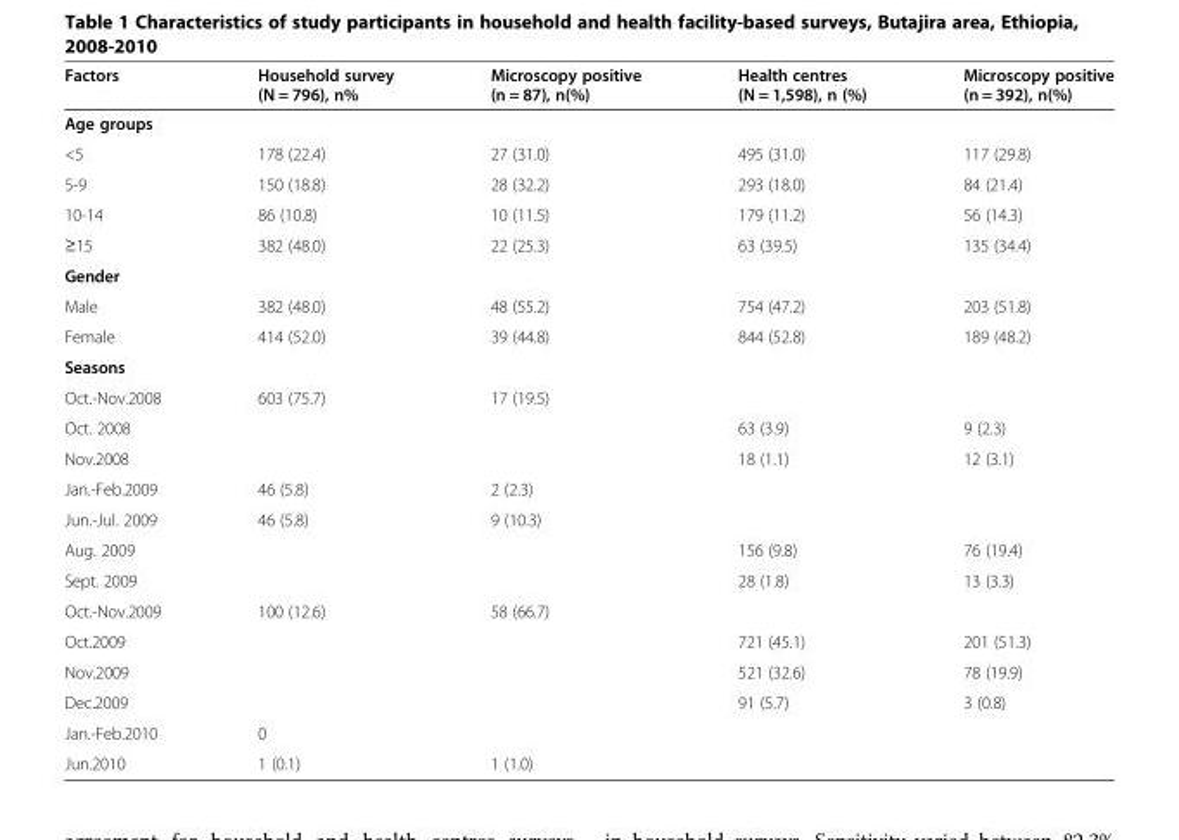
<table><thead><tr><td>Factors</td><td>Household survey (N = 796), n%</td><td>Microscopy positive (n = 87), n(%)</td><td>Health centres (N = 1,598), n (%)</td><td>Microscopy positive (n = 392), n(%)</td></tr></thead><tbody><tr><td colspan="5">Age groups</td></tr><tr><td>&lt;5</td><td>178 (22.4)</td><td>27 (31.0)</td><td>495 (31.0)</td><td>117 (29.8)</td></tr><tr><td>5-9</td><td>150 (18.8)</td><td>28 (32.2)</td><td>293 (18.0)</td><td>84 (21.4)</td></tr><tr><td>10-14</td><td>86 (10.8)</td><td>10 (11.5)</td><td>179 (11.2)</td><td>56 (14.3)</td></tr><tr><td>≥15</td><td>382 (48.0)</td><td>22 (25.3)</td><td>63 (39.5)</td><td>135 (34.4)</td></tr><tr><td colspan="5">Gender</td></tr><tr><td>Male</td><td>382 (48.0)</td><td>48 (55.2)</td><td>754 (47.2)</td><td>203 (51.8)</td></tr><tr><td>Female</td><td>414 (52.0)</td><td>39 (44.8)</td><td>844 (52.8)</td><td>189 (48.2)</td></tr><tr><td colspan="5">Seasons</td></tr><tr><td>Oct.-Nov.2008</td><td>603 (75.7)</td><td>17 (19.5)</td><td></td><td></td></tr><tr><td>Oct. 2008</td><td></td><td></td><td>63 (3.9)</td><td>9 (2.3)</td></tr><tr><td>Nov.2008</td><td></td><td></td><td>18 (1.1)</td><td>12 (3.1)</td></tr><tr><td>Jan.-Feb.2009</td><td>46 (5.8)</td><td>2 (2.3)</td><td></td><td></td></tr><tr><td>Jun.-Jul. 2009</td><td>46 (5.8)</td><td>9 (10.3)</td><td></td><td></td></tr><tr><td>Aug. 2009</td><td></td><td></td><td>156 (9.8)</td><td>76 (19.4)</td></tr><tr><td>Sept. 2009</td><td></td><td></td><td>28 (1.8)</td><td>13 (3.3)</td></tr><tr><td>Oct.-Nov.2009</td><td>100 (12.6)</td><td>58 (66.7)</td><td></td><td></td></tr><tr><td>Oct.2009</td><td></td><td></td><td>721 (45.1)</td><td>201 (51.3)</td></tr><tr><td>Nov.2009</td><td></td><td></td><td>521 (32.6)</td><td>78 (19.9)</td></tr><tr><td>Dec.2009</td><td></td><td></td><td>91 (5.7)</td><td>3 (0.8)</td></tr><tr><td>Jan.-Feb.2010</td><td>0</td><td></td><td></td><td></td></tr><tr><td>Jun.2010</td><td>1 (0.1)</td><td>1 (1.0)</td><td></td><td></td></tr></tbody></table>